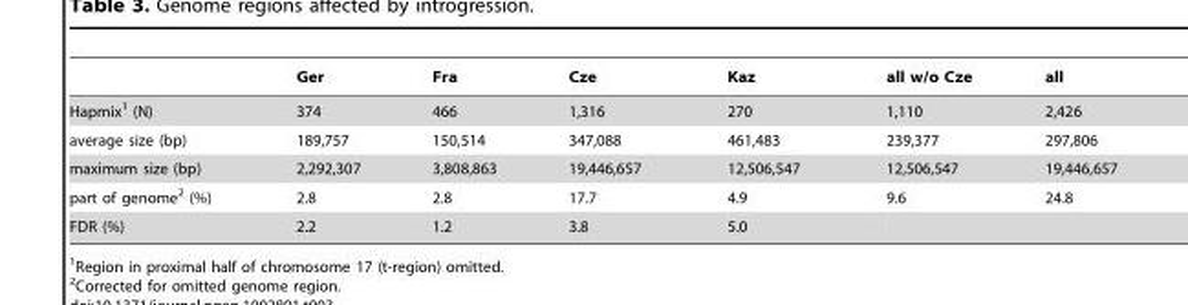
<table><thead><tr><td></td><td>Ger</td><td>Fra</td><td>Cze</td><td>Kaz</td><td>all w/o Cze</td><td>all</td></tr></thead><tbody><tr><td>Hapmix<sup>1</sup> (N)</td><td>374</td><td>466</td><td>1,316</td><td>270</td><td>1,110</td><td>2,426</td></tr><tr><td>average size (bp)</td><td>189,757</td><td>150,514</td><td>347,088</td><td>461,483</td><td>239,377</td><td>297,806</td></tr><tr><td>maximum size (bp)</td><td>2,292,307</td><td>3,808,863</td><td>19,446,657</td><td>12,506,547</td><td>12,506,547</td><td>19,446,657</td></tr><tr><td>part of genome<sup>2</sup> (%)</td><td>2.8</td><td>2.8</td><td>17.7</td><td>4.9</td><td>9.6</td><td>24.8</td></tr><tr><td>FDR (%)</td><td>2.2</td><td>1.2</td><td>3.8</td><td>5.0</td><td></td><td></td></tr></tbody></table>